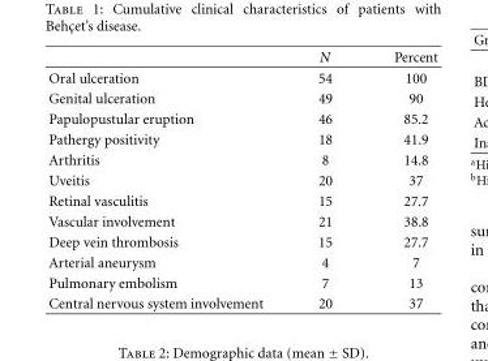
<table><thead><tr><td></td><td>N</td><td>Percent</td></tr></thead><tbody><tr><td>Oral ulceration</td><td>54</td><td>100</td></tr><tr><td>Genital ulceration</td><td>49</td><td>90</td></tr><tr><td>Papulopustular eruption</td><td>46</td><td>85.2</td></tr><tr><td>Pathergy positivity</td><td>18</td><td>41.9</td></tr><tr><td>Arthritis</td><td>8</td><td>14.8</td></tr><tr><td>Uveitis</td><td>20</td><td>37</td></tr><tr><td>Retinal vasculitis</td><td>15</td><td>27.7</td></tr><tr><td>Vascular involvement</td><td>21</td><td>38.8</td></tr><tr><td>Deep vein thrombosis</td><td>15</td><td>27.7</td></tr><tr><td>Arterial aneurysm</td><td>4</td><td>7</td></tr><tr><td>Pulmonary embolism</td><td>7</td><td>13</td></tr><tr><td>Central nervous system involvement</td><td>20</td><td>37</td></tr></tbody></table>